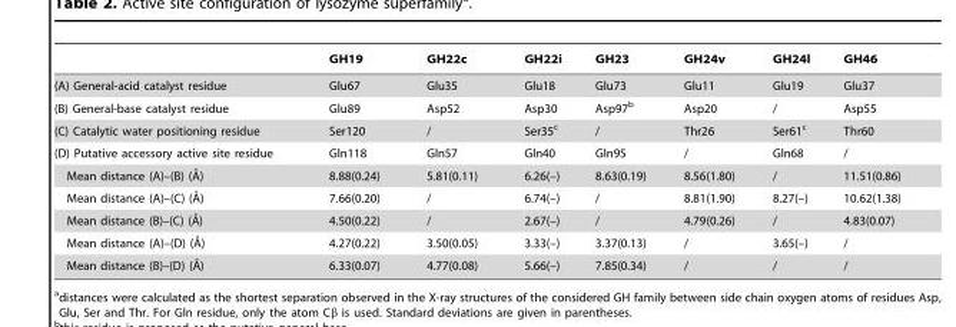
<table><thead><tr><td></td><td>GH19</td><td>GH22c</td><td>GH22i</td><td>GH23</td><td>GH24v</td><td>GH24l</td><td>GH46</td></tr></thead><tbody><tr><td>(A) General-acid catalyst residue</td><td>Glu67</td><td>Glu35</td><td>Glu18</td><td>Glu73</td><td>Glu11</td><td>Glu19</td><td>Glu37</td></tr><tr><td>(B) General-base catalyst residue</td><td>Glu89</td><td>Asp52</td><td>Asp30</td><td>Asp97<sup>b</sup></td><td>Asp20</td><td>/</td><td>Asp55</td></tr><tr><td>(C) Catalytic water positioning residue</td><td>Ser120</td><td>/</td><td>Ser35<sup>c</sup></td><td>/</td><td>Thr26</td><td>Ser61<sup>c</sup></td><td>Thr60</td></tr><tr><td>(D) Putative accessory active site residue</td><td>Gln118</td><td>Gln57</td><td>Gln40</td><td>Gln95</td><td>/</td><td>Gln68</td><td>/</td></tr><tr><td>Mean distance (A)–(B) (A˚)</td><td>8.88(0.24)</td><td>5.81(0.11)</td><td>6.26(–)</td><td>8.63(0.19)</td><td>8.56(1.80)</td><td>/</td><td>11.51(0.86)</td></tr><tr><td>Mean distance (A)–(C) (A˚)</td><td>7.66(0.20)</td><td>/</td><td>6.74(–)</td><td>/</td><td>8.81(1.90)</td><td>8.27(–)</td><td>10.62(1.38)</td></tr><tr><td>Mean distance (B)–(C) (A˚)</td><td>4.50(0.22)</td><td>/</td><td>2.67(–)</td><td>/</td><td>4.79(0.26)</td><td>/</td><td>4.83(0.07)</td></tr><tr><td>Mean distance (A)–(D) (A˚)</td><td>4.27(0.22)</td><td>3.50(0.05)</td><td>3.33(–)</td><td>3.37(0.13)</td><td>/</td><td>3.65(–)</td><td>/</td></tr><tr><td>Mean distance (B)–(D) (A˚)</td><td>6.33(0.07)</td><td>4.77(0.08)</td><td>5.66(–)</td><td>7.85(0.34)</td><td>/</td><td>/</td><td>/</td></tr></tbody></table>